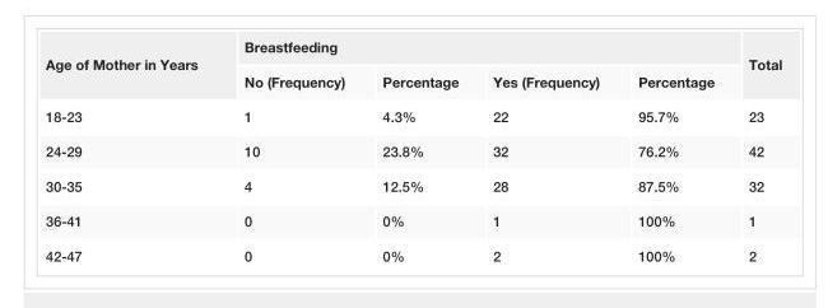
<table><tbody><tr><td rowspan="2">Age of Mother in Years</td><td colspan="4">Breastfeeding</td><td rowspan="2">Total</td></tr><tr><td>No (Frequency)</td><td>Percentage</td><td>Yes (Frequency)</td><td>Percentage</td></tr><tr><td>18-23</td><td>1</td><td>4.3%</td><td>22</td><td>95.7%</td><td>23</td></tr><tr><td>24-29</td><td>10</td><td>23.8%</td><td>32</td><td>76.2%</td><td>42</td></tr><tr><td>30-35</td><td>4</td><td>12.5%</td><td>28</td><td>87.5%</td><td>32</td></tr><tr><td>36-41</td><td>0</td><td>0%</td><td>1</td><td>100%</td><td>1</td></tr><tr><td>42-47</td><td>0</td><td>0%</td><td>2</td><td>100%</td><td>2</td></tr></tbody></table>